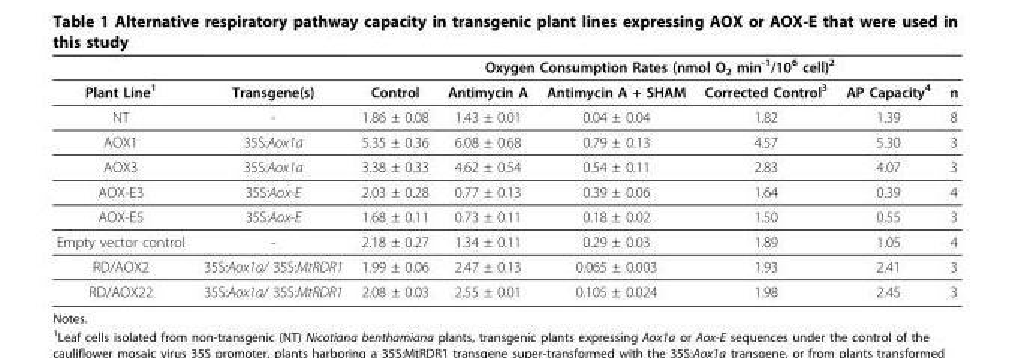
<table><thead><tr><td rowspan="2">Plant Line<sup>1</sup></td><td rowspan="2">Transgene(s)</td><td colspan="6">Oxygen Consumption Rates (nmol O<sub>2</sub> min<sup>-1</sup>/10<sup>6</sup> cell)<sup>2</sup></td></tr><tr><td>Control</td><td>Antimycin A</td><td>Antimycin A + SHAM</td><td>Corrected Control<sup>3</sup></td><td>AP Capacity<sup>4</sup></td><td>n</td></tr></thead><tbody><tr><td>NT</td><td>-</td><td>1.86 ± 0.08</td><td>1.43 ± 0.01</td><td>0.04 ± 0.04</td><td>1.82</td><td>1.39</td><td>8</td></tr><tr><td>AOX1</td><td>35S:Aox1a</td><td>5.35 ± 0.36</td><td>6.08 ± 0.68</td><td>0.79 ± 0.13</td><td>4.57</td><td>5.30</td><td>3</td></tr><tr><td>AOX3</td><td>35S:Aox1a</td><td>3.38 ± 0.33</td><td>4.62 ± 0.54</td><td>0.54 ± 0.11</td><td>2.83</td><td>4.07</td><td>3</td></tr><tr><td>AOX-E3</td><td>35S:Aox-E</td><td>2.03 ± 0.28</td><td>0.77 ± 0.13</td><td>0.39 ± 0.06</td><td>1.64</td><td>0.39</td><td>4</td></tr><tr><td>AOX-E5</td><td>35S:Aox-E</td><td>1.68 ± 0.11</td><td>0.73 ± 0.11</td><td>0.18 ± 0.02</td><td>1.50</td><td>0.55</td><td>3</td></tr><tr><td>Empty vector control</td><td>-</td><td>2.18 ± 0.27</td><td>1.34 ± 0.11</td><td>0.29 ± 0.03</td><td>1.89</td><td>1.05</td><td>4</td></tr><tr><td>RD/AOX2</td><td>35S:Aox1a/ 35S:MtRDR1</td><td>1.99 ± 0.06</td><td>2.47 ± 0.13</td><td>0.065 ± 0.003</td><td>1.93</td><td>2.41</td><td>3</td></tr><tr><td>RD/AOX22</td><td>35S:Aox1a/ 35S:MtRDR1</td><td>2.08 ± 0.03</td><td>2.55 ± 0.01</td><td>0.105 ± 0.024</td><td>1.98</td><td>2.45</td><td>3</td></tr></tbody></table>